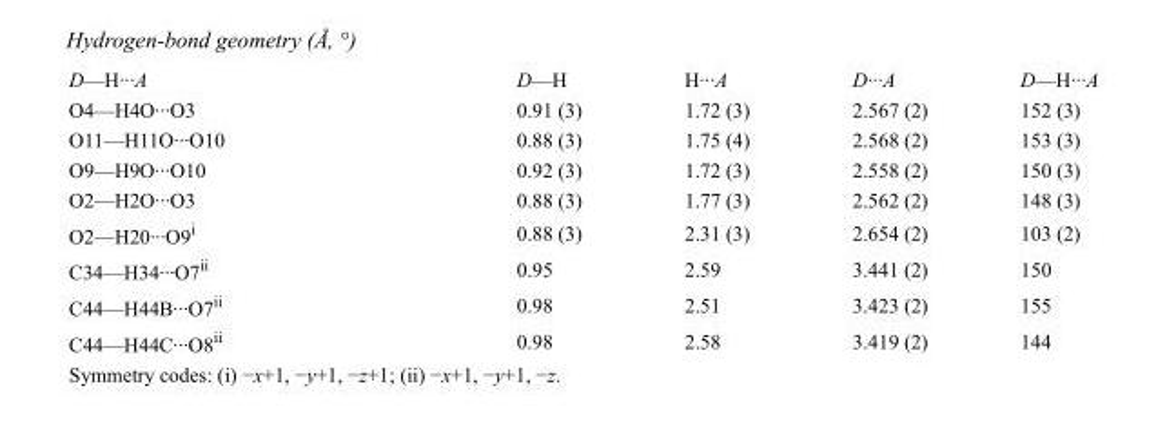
<table><tbody><tr><td>D—H···A</td><td>D—H</td><td>H···A</td><td>D···A</td><td>D—H···A</td></tr><tr><td>O4—H4O···O3</td><td>0.91 (3)</td><td>1.72 (3)</td><td>2.567 (2)</td><td>152 (3)</td></tr><tr><td>O11—H11O···O10</td><td>0.88 (3)</td><td>1.75 (4)</td><td>2.568 (2)</td><td>153 (3)</td></tr><tr><td>O9—H9O···O10</td><td>0.92 (3)</td><td>1.72 (3)</td><td>2.558 (2)</td><td>150 (3)</td></tr><tr><td>O2—H2O···O3</td><td>0.88 (3)</td><td>1.77 (3)</td><td>2.562 (2)</td><td>148 (3)</td></tr><tr><td>O2—H20···O9<sup>i</sup></td><td>0.88 (3)</td><td>2.31 (3)</td><td>2.654 (2)</td><td>103 (2)</td></tr><tr><td>C34—H34···O7<sup>ii</sup></td><td>0.95</td><td>2.59</td><td>3.441 (2)</td><td>150</td></tr><tr><td>C44—H44B···O7<sup>ii</sup></td><td>0.98</td><td>2.51</td><td>3.423 (2)</td><td>155</td></tr><tr><td>C44—H44C···O8<sup>ii</sup></td><td>0.98</td><td>2.58</td><td>3.419 (2)</td><td>144</td></tr></tbody></table>